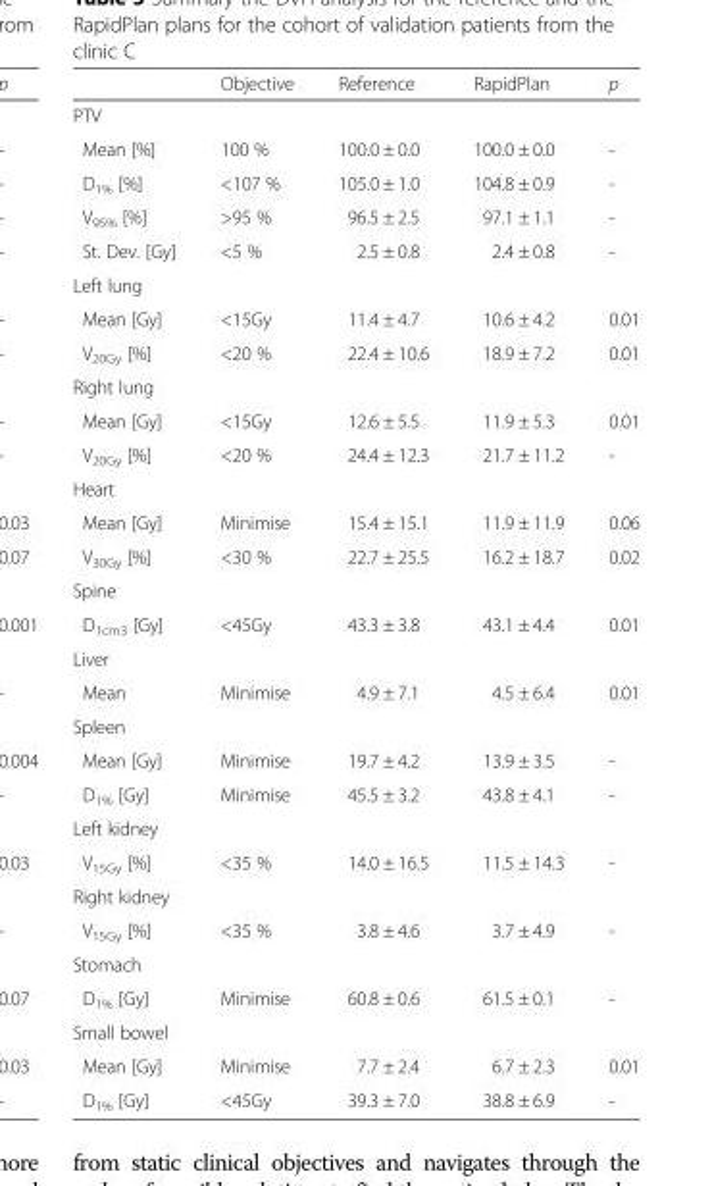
<table><thead><tr><td></td><td>Objective</td><td>Reference</td><td>RapidPlan</td><td>p</td></tr></thead><tbody><tr><td colspan="5">PTV</td></tr><tr><td>Mean [%]</td><td>100 %</td><td>100.0 ± 0.0</td><td>100.0 ± 0.0</td><td>-</td></tr><tr><td>D<sub>1%</sub> [%]</td><td>&lt;107 %</td><td>105.0 ± 1.0</td><td>104.8 ± 0.9</td><td>-</td></tr><tr><td>V<sub>95%</sub> [%]</td><td>&gt;95 %</td><td>96.5 ± 2.5</td><td>97.1 ± 1.1</td><td>-</td></tr><tr><td>St. Dev. [Gy]</td><td>&lt;5 %</td><td>2.5 ± 0.8</td><td>2.4 ± 0.8</td><td>-</td></tr><tr><td colspan="5">Left lung</td></tr><tr><td>Mean [Gy]</td><td>&lt;15Gy</td><td>11.4 ± 4.7</td><td>10.6 ± 4.2</td><td>0.01</td></tr><tr><td>V<sub>20Gy</sub> [%]</td><td>&lt;20 %</td><td>22.4 ± 10.6</td><td>18.9 ± 7.2</td><td>0.01</td></tr><tr><td colspan="5">Right lung</td></tr><tr><td>Mean [Gy]</td><td>&lt;15Gy</td><td>12.6 ± 5.5</td><td>11.9 ± 5.3</td><td>0.01</td></tr><tr><td>V<sub>20Gy</sub> [%]</td><td>&lt;20 %</td><td>24.4 ± 12.3</td><td>21.7 ± 11.2</td><td>-</td></tr><tr><td colspan="5">Heart</td></tr><tr><td>Mean [Gy]</td><td>Minimise</td><td>15.4 ± 15.1</td><td>11.9 ± 11.9</td><td>0.06</td></tr><tr><td>V<sub>30Gy</sub> [%]</td><td>&lt;30 %</td><td>22.7 ± 25.5</td><td>16.2 ± 18.7</td><td>0.02</td></tr><tr><td colspan="5">Spine</td></tr><tr><td>D<sub>1cm3</sub> [Gy]</td><td>&lt;45Gy</td><td>43.3 ± 3.8</td><td>43.1 ± 4.4</td><td>0.01</td></tr><tr><td colspan="5">Liver</td></tr><tr><td>Mean</td><td>Minimise</td><td>4.9 ± 7.1</td><td>4.5 ± 6.4</td><td>0.01</td></tr><tr><td colspan="5">Spleen</td></tr><tr><td>Mean [Gy]</td><td>Minimise</td><td>19.7 ± 4.2</td><td>13.9 ± 3.5</td><td>-</td></tr><tr><td>D<sub>1%</sub> [Gy]</td><td>Minimise</td><td>45.5 ± 3.2</td><td>43.8 ± 4.1</td><td>-</td></tr><tr><td colspan="5">Left kidney</td></tr><tr><td>V<sub>15Gy</sub> [%]</td><td>&lt;35 %</td><td>14.0 ± 16.5</td><td>11.5 ± 14.3</td><td>-</td></tr><tr><td colspan="5">Right kidney</td></tr><tr><td>V<sub>15Gy</sub> [%]</td><td>&lt;35 %</td><td>3.8 ± 4.6</td><td>3.7 ± 4.9</td><td>-</td></tr><tr><td colspan="5">Stomach</td></tr><tr><td>D<sub>1%</sub> [Gy]</td><td>Minimise</td><td>60.8 ± 0.6</td><td>61.5 ± 0.1</td><td>-</td></tr><tr><td colspan="5">Small bowel</td></tr><tr><td>Mean [Gy]</td><td>Minimise</td><td>7.7 ± 2.4</td><td>6.7 ± 2.3</td><td>0.01</td></tr><tr><td>D<sub>1%</sub> [Gy]</td><td>&lt;45Gy</td><td>39.3 ± 7.0</td><td>38.8 ± 6.9</td><td>-</td></tr></tbody></table>